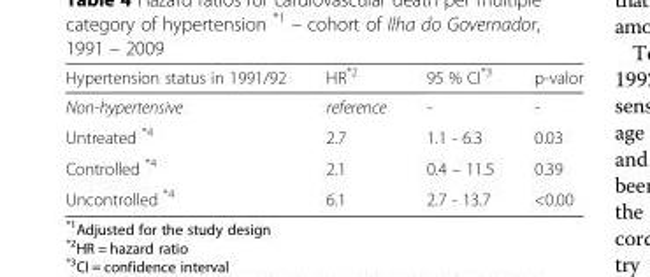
<table><thead><tr><td>Hypertension status in 1991/92</td><td>HR<sup>*2</sup></td><td>95 % CI<sup>*3</sup></td><td>p-valor</td></tr></thead><tbody><tr><td>Non-hypertensive</td><td>reference</td><td>-</td><td>-</td></tr><tr><td>Untreated <sup>*4</sup></td><td>2.7</td><td>1.1 - 6.3</td><td>0.03</td></tr><tr><td>Controlled <sup>*4</sup></td><td>2.1</td><td>0.4 – 11.5</td><td>0.39</td></tr><tr><td>Uncontrolled <sup>*4</sup></td><td>6.1</td><td>2.7 - 13.7</td><td>&lt;0.00</td></tr></tbody></table>